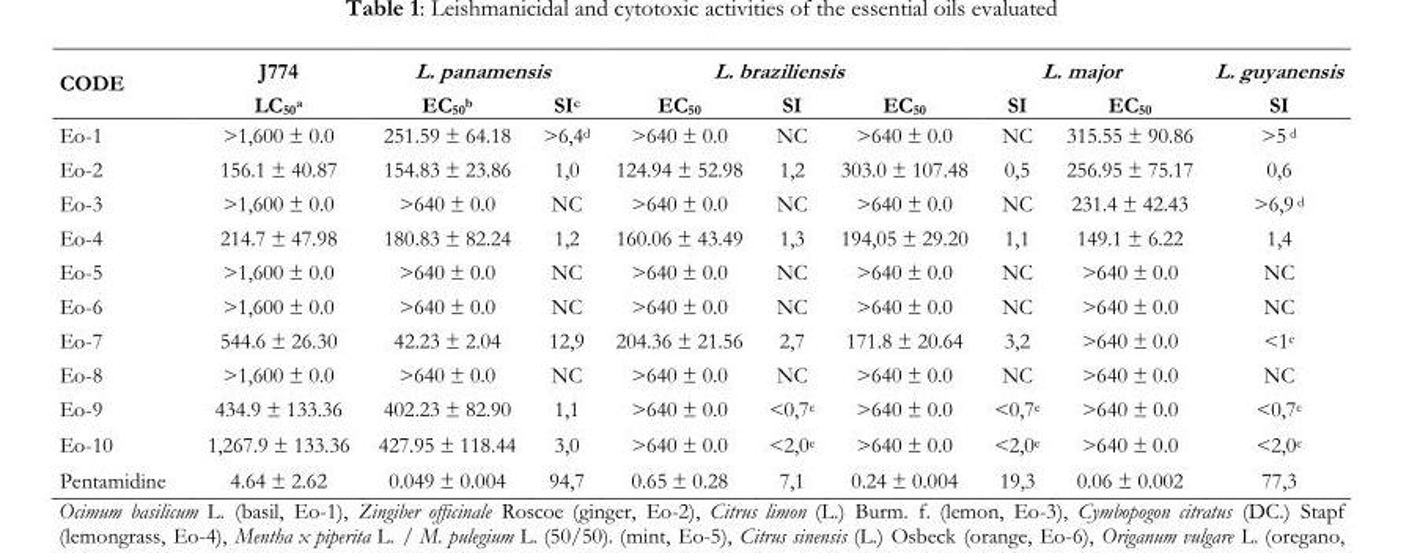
<table><thead><tr><td rowspan="2">CODE</td><td rowspan="2">J774 LC<sub>50</sub>a</td><td colspan="2">L. panamensis</td><td colspan="3">L. braziliensis</td><td colspan="2">L. major</td><td rowspan="2">L. guyanensis SI</td></tr><tr><td>EC<sub>50</sub>b</td><td>SI<sup>c</sup></td><td>EC<sub>50</sub></td><td>SI</td><td>EC<sub>50</sub></td><td>SI</td><td>EC<sub>50</sub></td></tr></thead><tbody><tr><td>Eo-1</td><td>&gt;1,600 ± 0.0</td><td>251.59 ± 64.18</td><td>&gt;6,4<sup>d</sup></td><td>&gt;640 ± 0.0</td><td>NC</td><td>&gt;640 ± 0.0</td><td>NC</td><td>315.55 ± 90.86</td><td>&gt;5 d</td></tr><tr><td>Eo-2</td><td>156.1 ± 40.87</td><td>154.83 ± 23.86</td><td>1,0</td><td>124.94 ± 52.98</td><td>1,2</td><td>303.0 ± 107.48</td><td>0,5</td><td>256.95 ± 75.17</td><td>0,6</td></tr><tr><td>Eo-3</td><td>&gt;1,600 ± 0.0</td><td>&gt;640 ± 0.0</td><td>NC</td><td>&gt;640 ± 0.0</td><td>NC</td><td>&gt;640 ± 0.0</td><td>NC</td><td>231.4 ± 42.43</td><td>&gt;6,9 d</td></tr><tr><td>Eo-4</td><td>214.7 ± 47.98</td><td>180.83 ± 82.24</td><td>1,2</td><td>160.06 ± 43.49</td><td>1,3</td><td>194,05 ± 29.20</td><td>1,1</td><td>149.1 ± 6.22</td><td>1,4</td></tr><tr><td>Eo-5</td><td>&gt;1,600 ± 0.0</td><td>&gt;640 ± 0.0</td><td>NC</td><td>&gt;640 ± 0.0</td><td>NC</td><td>&gt;640 ± 0.0</td><td>NC</td><td>&gt;640 ± 0.0</td><td>NC</td></tr><tr><td>Eo-6</td><td>&gt;1,600 ± 0.0</td><td>&gt;640 ± 0.0</td><td>NC</td><td>&gt;640 ± 0.0</td><td>NC</td><td>&gt;640 ± 0.0</td><td>NC</td><td>&gt;640 ± 0.0</td><td>NC</td></tr><tr><td>Eo-7</td><td>544.6 ± 26.30</td><td>42.23 ± 2.04</td><td>12,9</td><td>204.36 ± 21.56</td><td>2,7</td><td>171.8 ± 20.64</td><td>3,2</td><td>&gt;640 ± 0.0</td><td>&lt;1<sup>e</sup></td></tr><tr><td>Eo-8</td><td>&gt;1,600 ± 0.0</td><td>&gt;640 ± 0.0</td><td>NC</td><td>&gt;640 ± 0.0</td><td>NC</td><td>&gt;640 ± 0.0</td><td>NC</td><td>&gt;640 ± 0.0</td><td>NC</td></tr><tr><td>Eo-9</td><td>434.9 ± 133.36</td><td>402.23 ± 82.90</td><td>1,1</td><td>&gt;640 ± 0.0</td><td>&lt;0,7<sup>e</sup></td><td>&gt;640 ± 0.0</td><td>&lt;0,7<sup>e</sup></td><td>&gt;640 ± 0.0</td><td>&lt;0,7<sup>e</sup></td></tr><tr><td>Eo-10</td><td>1,267.9 ± 133.36</td><td>427.95 ± 118.44</td><td>3,0</td><td>&gt;640 ± 0.0</td><td>&lt;2,0<sup>e</sup></td><td>&gt;640 ± 0.0</td><td>&lt;2,0<sup>e</sup></td><td>&gt;640 ± 0.0</td><td>&lt;2,0<sup>e</sup></td></tr><tr><td>Pentamidine</td><td>4.64 ± 2.62</td><td>0.049 ± 0.004</td><td>94,7</td><td>0.65 ± 0.28</td><td>7,1</td><td>0.24 ± 0.004</td><td>19,3</td><td>0.06 ± 0.002</td><td>77,3</td></tr></tbody></table>